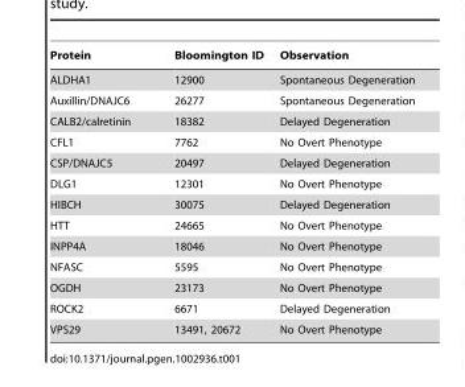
<table><thead><tr><td>Protein</td><td>Bloomington ID</td><td>Observation</td></tr></thead><tbody><tr><td>ALDHA1</td><td>12900</td><td>Spontaneous Degeneration</td></tr><tr><td>Auxillin/DNAJC6</td><td>26277</td><td>Spontaneous Degeneration</td></tr><tr><td>CALB2/calretinin</td><td>18382</td><td>Delayed Degeneration</td></tr><tr><td>CFL1</td><td>7762</td><td>No Overt Phenotype</td></tr><tr><td>CSP/DNAJC5</td><td>20497</td><td>Delayed Degeneration</td></tr><tr><td>DLG1</td><td>12301</td><td>No Overt Phenotype</td></tr><tr><td>HIBCH</td><td>30075</td><td>Delayed Degeneration</td></tr><tr><td>HTT</td><td>24665</td><td>No Overt Phenotype</td></tr><tr><td>INPP4A</td><td>18046</td><td>No Overt Phenotype</td></tr><tr><td>NFASC</td><td>5595</td><td>No Overt Phenotype</td></tr><tr><td>OGDH</td><td>23173</td><td>No Overt Phenotype</td></tr><tr><td>ROCK2</td><td>6671</td><td>Delayed Degeneration</td></tr><tr><td>VPS29</td><td>13491, 20672</td><td>No Overt Phenotype</td></tr></tbody></table>